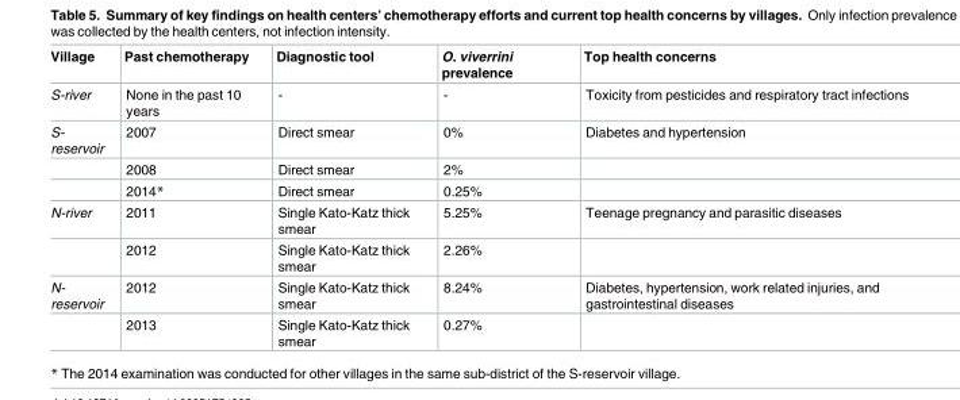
<table><thead><tr><td>Village</td><td>Past chemotherapy</td><td>Diagnostic tool</td><td>O. viverrini prevalence</td><td>Top health concerns</td></tr></thead><tbody><tr><td>S-river</td><td>None in the past 10 years</td><td>-</td><td>-</td><td>Toxicity from pesticides and respiratory tract infections</td></tr><tr><td rowspan="3">S- reservoir</td><td>2007</td><td>Direct smear</td><td>0%</td><td>Diabetes and hypertension</td></tr><tr><td>2008</td><td>Direct smear</td><td>2%</td><td></td></tr><tr><td>2014*</td><td>Direct smear</td><td>0.25%</td><td></td></tr><tr><td rowspan="2">N-river</td><td>2011</td><td>Single Kato-Katz thick smear</td><td>5.25%</td><td>Teenage pregnancy and parasitic diseases</td></tr><tr><td>2012</td><td>Single Kato-Katz thick smear</td><td>2.26%</td><td></td></tr><tr><td rowspan="2">N- reservoir</td><td>2012</td><td>Single Kato-Katz thick smear</td><td>8.24%</td><td>Diabetes, hypertension, work related injuries, and gastrointestinal diseases</td></tr><tr><td>2013</td><td>Single Kato-Katz thick smear</td><td>0.27%</td><td></td></tr></tbody></table>